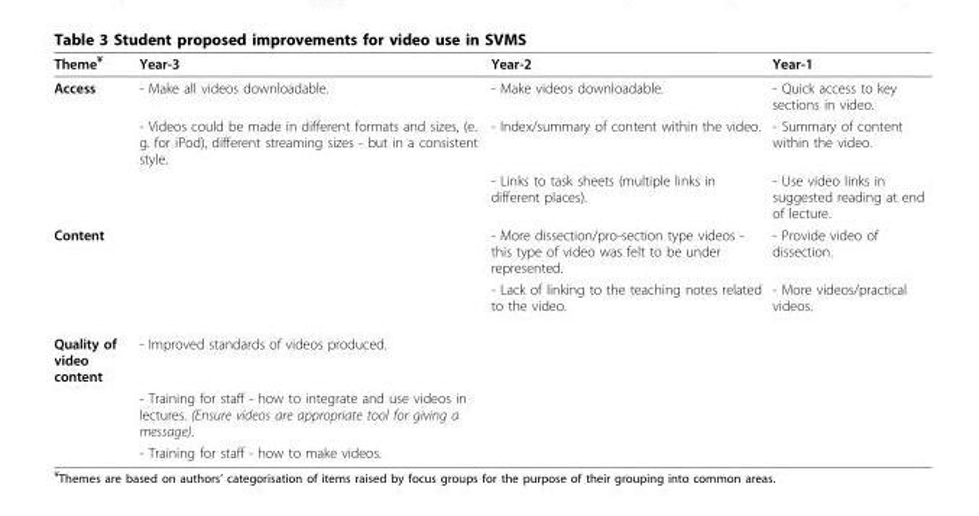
<table><thead><tr><td>Theme<sup>¥</sup></td><td>Year-3</td><td>Year-2</td><td>Year-1</td></tr></thead><tbody><tr><td rowspan="3">Access</td><td>- Make all videos downloadable.</td><td>- Make videos downloadable.</td><td>- Quick access to key sections in video.</td></tr><tr><td>- Videos could be made in different formats and sizes, (e. g. for iPod), different streaming sizes - but in a consistent style.</td><td>- Index/summary of content within the video.</td><td>- Summary of content within the video.</td></tr><tr><td></td><td>- Links to task sheets (multiple links in different places).</td><td>- Use video links in suggested reading at end of lecture.</td></tr><tr><td rowspan="2">Content</td><td></td><td>- More dissection/pro-section type videos - this type of video was felt to be under represented.</td><td>- Provide video of dissection.</td></tr><tr><td></td><td>- Lack of linking to the teaching notes related to the video.</td><td>- More videos/practical videos.</td></tr><tr><td rowspan="3">Quality of video content</td><td>- Improved standards of videos produced.</td><td></td><td></td></tr><tr><td>- Training for staff - how to integrate and use videos in lectures. (Ensure videos are appropriate tool for giving a message).</td><td></td><td></td></tr><tr><td>- Training for staff - how to make videos.</td><td></td><td></td></tr></tbody></table>